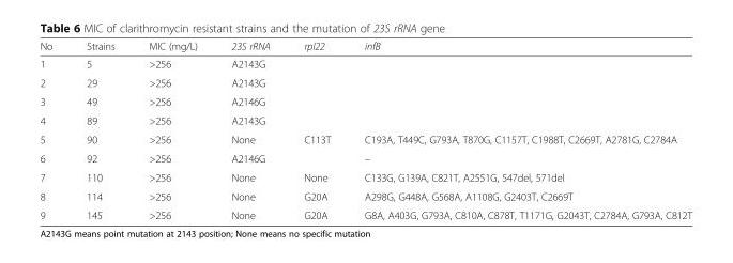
<table><thead><tr><td>No</td><td>Strains</td><td>MIC (mg/L)</td><td>23S rRNA</td><td>rpl22</td><td>infB</td></tr></thead><tbody><tr><td>1</td><td>5</td><td>&gt;256</td><td>A2143G</td><td></td><td></td></tr><tr><td>2</td><td>29</td><td>&gt;256</td><td>A2143G</td><td></td><td></td></tr><tr><td>3</td><td>49</td><td>&gt;256</td><td>A2146G</td><td></td><td></td></tr><tr><td>4</td><td>89</td><td>&gt;256</td><td>A2143G</td><td></td><td></td></tr><tr><td>5</td><td>90</td><td>&gt;256</td><td>None</td><td>C113T</td><td>C193A, T449C, G793A, T870G, C1157T, C1988T, C2669T, A2781G, C2784A</td></tr><tr><td>6</td><td>92</td><td>&gt;256</td><td>A2146G</td><td></td><td>–</td></tr><tr><td>7</td><td>110</td><td>&gt;256</td><td>None</td><td>None</td><td>C133G, G139A, C821T, A2551G, 547del, 571del</td></tr><tr><td>8</td><td>114</td><td>&gt;256</td><td>None</td><td>G20A</td><td>A298G, G448A, G568A, A1108G, G2403T, C2669T</td></tr><tr><td>9</td><td>145</td><td>&gt;256</td><td>None</td><td>G20A</td><td>G8A, A403G, G793A, C810A, C878T, T1171G, G2043T, C2784A, G793A, C812T</td></tr></tbody></table>